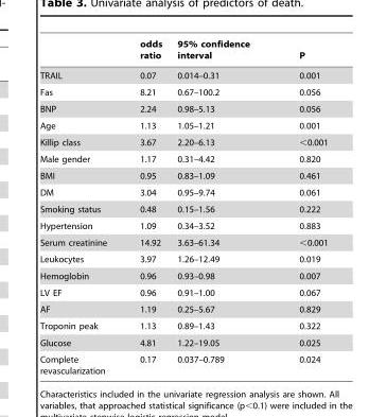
<table><thead><tr><td></td><td>odds ratio</td><td>95% confidence interval</td><td>P</td></tr></thead><tbody><tr><td>TRAIL</td><td>0.07</td><td>0.014–0.31</td><td>0.001</td></tr><tr><td>Fas</td><td>8.21</td><td>0.67–100.2</td><td>0.056</td></tr><tr><td>BNP</td><td>2.24</td><td>0.98–5.13</td><td>0.056</td></tr><tr><td>Age</td><td>1.13</td><td>1.05–1.21</td><td>0.001</td></tr><tr><td>Killip class</td><td>3.67</td><td>2.20–6.13</td><td>&lt;0.001</td></tr><tr><td>Male gender</td><td>1.17</td><td>0.31–4.42</td><td>0.820</td></tr><tr><td>BMI</td><td>0.95</td><td>0.83–1.09</td><td>0.461</td></tr><tr><td>DM</td><td>3.04</td><td>0.95–9.74</td><td>0.061</td></tr><tr><td>Smoking status</td><td>0.48</td><td>0.15–1.56</td><td>0.222</td></tr><tr><td>Hypertension</td><td>1.09</td><td>0.34–3.52</td><td>0.883</td></tr><tr><td>Serum creatinine</td><td>14.92</td><td>3.63–61.34</td><td>&lt;0.001</td></tr><tr><td>Leukocytes</td><td>3.97</td><td>1.26–12.49</td><td>0.019</td></tr><tr><td>Hemoglobin</td><td>0.96</td><td>0.93–0.98</td><td>0.007</td></tr><tr><td>LV EF</td><td>0.96</td><td>0.91–1.00</td><td>0.067</td></tr><tr><td>AF</td><td>1.19</td><td>0.25–5.67</td><td>0.829</td></tr><tr><td>Troponin peak</td><td>1.13</td><td>0.89–1.43</td><td>0.322</td></tr><tr><td>Glucose</td><td>4.81</td><td>1.22–19.05</td><td>0.025</td></tr><tr><td>Complete revascularization</td><td>0.17</td><td>0.037–0.789</td><td>0.024</td></tr></tbody></table>